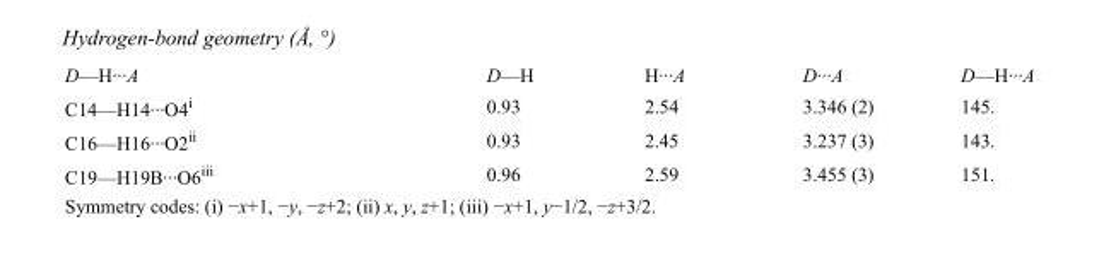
<table><tbody><tr><td>D—H···A</td><td>D—H</td><td>H···A</td><td>D···A</td><td>D—H···A</td></tr><tr><td>C14—H14···O4<sup>i</sup></td><td>0.93</td><td>2.54</td><td>3.346 (2)</td><td>145.</td></tr><tr><td>C16—H16···O2<sup>ii</sup></td><td>0.93</td><td>2.45</td><td>3.237 (3)</td><td>143.</td></tr><tr><td>C19—H19B···O6<sup>iii</sup></td><td>0.96</td><td>2.59</td><td>3.455 (3)</td><td>151.</td></tr></tbody></table>